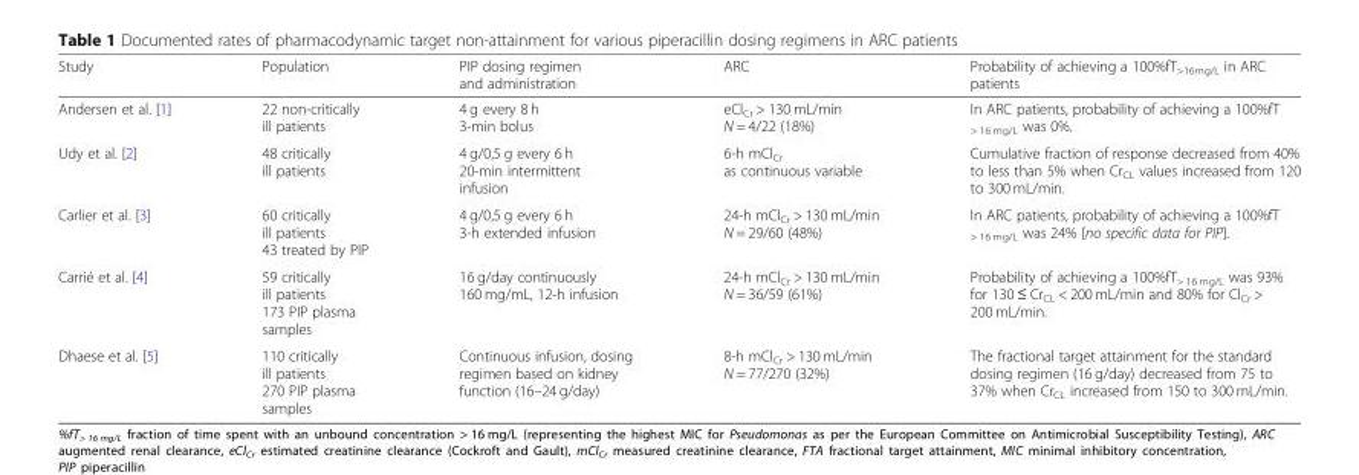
<table><thead><tr><td>Study</td><td>Population</td><td>PIP dosing regimen and administration</td><td>ARC</td><td>Probability of achieving a 100%fT<sub>&gt;16mg/L</sub> in ARC patients</td></tr></thead><tbody><tr><td>Andersen et al. [1]</td><td>22 non-critically ill patients</td><td>4 g every 8 h 3-min bolus</td><td>eCl<sub>Cr</sub> &gt; 130 mL/min N = 4/22 (18%)</td><td>In ARC patients, probability of achieving a 100%fT <sub>&gt; 16 mg/L</sub> was 0%.</td></tr><tr><td>Udy et al. [2]</td><td>48 critically ill patients</td><td>4 g/0,5 g every 6 h 20-min intermittent infusion</td><td>6-h mCl<sub>Cr</sub> as continuous variable</td><td>Cumulative fraction of response decreased from 40% to less than 5% when Cr<sub>CL</sub> values increased from 120 to 300 mL/min.</td></tr><tr><td>Carlier et al. [3]</td><td>60 critically ill patients 43 treated by PIP</td><td>4 g/0,5 g every 6 h 3-h extended infusion</td><td>24-h mCl<sub>Cr</sub> &gt; 130 mL/min N = 29/60 (48%)</td><td>In ARC patients, probability of achieving a 100%fT <sub>&gt; 16 mg/L</sub> was 24% [no specific data for PIP].</td></tr><tr><td>Carrié et al. [4]</td><td>59 critically ill patients 173 PIP plasma samples</td><td>16 g/day continuously 160 mg/mL, 12-h infusion</td><td>24-h mCl<sub>Cr</sub> &gt; 130 mL/min N = 36/59 (61%)</td><td>Probability of achieving a 100%fT<sub>&gt; 16 mg/L</sub> was 93% for 130 ≤ Cr<sub>CL</sub> &lt; 200 mL/min and 80% for Cl<sub>Cr</sub> &gt; 200 mL/min.</td></tr><tr><td>Dhaese et al. [5]</td><td>110 critically ill patients 270 PIP plasma samples</td><td>Continuous infusion, dosing regimen based on kidney function (16–24 g/day)</td><td>8-h mCl<sub>Cr</sub> &gt; 130 mL/min N = 77/270 (32%)</td><td>The fractional target attainment for the standard dosing regimen (16 g/day) decreased from 75 to 37% when Cr<sub>CL</sub> increased from 150 to 300 mL/min.</td></tr></tbody></table>